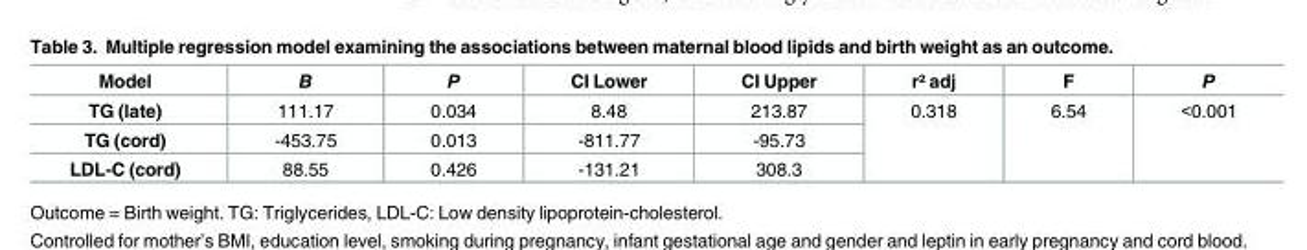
<table><thead><tr><td>Model</td><td>B</td><td>P</td><td>CI Lower</td><td>CI Upper</td><td>r² adj</td><td>F</td><td>P</td></tr></thead><tbody><tr><td>TG (late)</td><td>111.17</td><td>0.034</td><td>8.48</td><td>213.87</td><td rowspan="3">0.318</td><td rowspan="3">6.54</td><td rowspan="3">&lt;0.001</td></tr><tr><td>TG (cord)</td><td>-453.75</td><td>0.013</td><td>-811.77</td><td>-95.73</td></tr><tr><td>LDL-C (cord)</td><td>88.55</td><td>0.426</td><td>-131.21</td><td>308.3</td></tr></tbody></table>